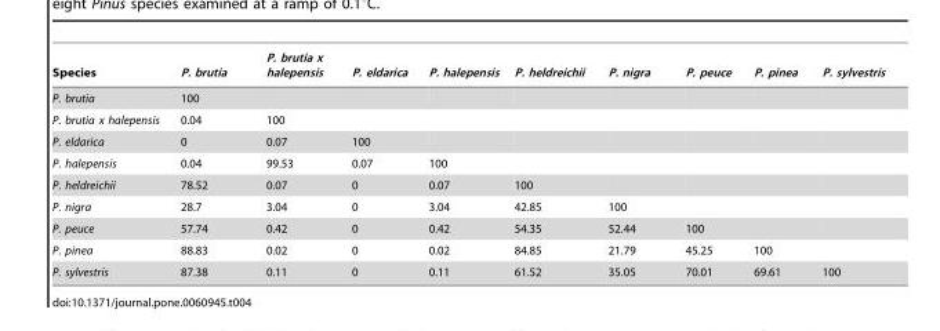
<table><thead><tr><td>Species</td><td>P. brutia</td><td>P. brutia x halepensis</td><td>P. eldarica</td><td>P. halepensis</td><td>P. heldreichii</td><td>P. nigra</td><td>P. peuce</td><td>P. pinea</td><td>P. sylvestris</td></tr></thead><tbody><tr><td>P. brutia</td><td>100</td><td></td><td></td><td></td><td></td><td></td><td></td><td></td><td></td></tr><tr><td>P. brutia x halepensis</td><td>0.04</td><td>100</td><td></td><td></td><td></td><td></td><td></td><td></td><td></td></tr><tr><td>P. eldarica</td><td>0</td><td>0.07</td><td>100</td><td></td><td></td><td></td><td></td><td></td><td></td></tr><tr><td>P. halepensis</td><td>0.04</td><td>99.53</td><td>0.07</td><td>100</td><td></td><td></td><td></td><td></td><td></td></tr><tr><td>P. heldreichii</td><td>78.52</td><td>0.07</td><td>0</td><td>0.07</td><td>100</td><td></td><td></td><td></td><td></td></tr><tr><td>P. nigra</td><td>28.7</td><td>3.04</td><td>0</td><td>3.04</td><td>42.85</td><td>100</td><td></td><td></td><td></td></tr><tr><td>P. peuce</td><td>57.74</td><td>0.42</td><td>0</td><td>0.42</td><td>54.35</td><td>52.44</td><td>100</td><td></td><td></td></tr><tr><td>P. pinea</td><td>88.83</td><td>0.02</td><td>0</td><td>0.02</td><td>84.85</td><td>21.79</td><td>45.25</td><td>100</td><td></td></tr><tr><td>P. sylvestris</td><td>87.38</td><td>0.11</td><td>0</td><td>0.11</td><td>61.52</td><td>35.05</td><td>70.01</td><td>69.61</td><td>100</td></tr></tbody></table>